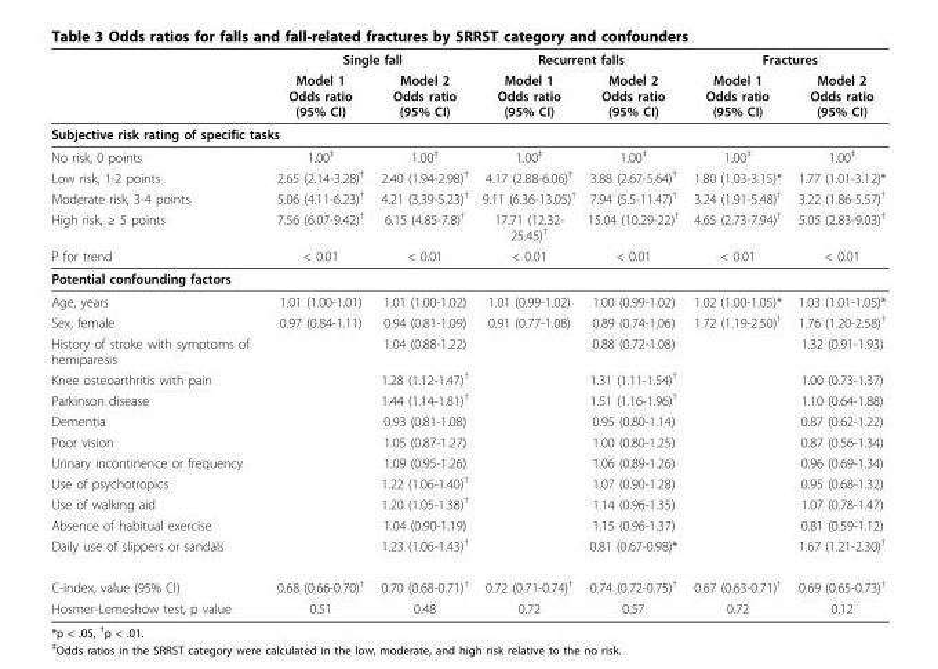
<table><thead><tr><td rowspan="2"></td><td colspan="2">Single fall</td><td colspan="2">Recurrent falls</td><td colspan="2">Fractures</td></tr><tr><td>Model 1 Odds ratio (95% CI)</td><td>Model 2 Odds ratio (95% CI)</td><td>Model 1 Odds ratio (95% CI)</td><td>Model 2 Odds ratio (95% CI)</td><td>Model 1 Odds ratio (95% CI)</td><td>Model 2 Odds ratio (95% CI)</td></tr></thead><tbody><tr><td colspan="7">Subjective risk rating of specific tasks</td></tr><tr><td>No risk, 0 points</td><td>1.00<sup>‡</sup></td><td>1.00<sup>‡</sup></td><td>1.00<sup>‡</sup></td><td>1.00<sup>‡</sup></td><td>1.00<sup>‡</sup></td><td>1.00<sup>‡</sup></td></tr><tr><td>Low risk, 1-2 points</td><td>2.65 (2.14-3.28)<sup>†</sup></td><td>2.40 (1.94-2.98)<sup>†</sup></td><td>4.17 (2.88-6.06)<sup>†</sup></td><td>3.88 (2.67-5.64)<sup>†</sup></td><td>1.80 (1.03-3.15)*</td><td>1.77 (1.01-3.12)*</td></tr><tr><td>Moderate risk, 3-4 points</td><td>5.06 (4.11-6.23)<sup>†</sup></td><td>4.21 (3.39-5.23)<sup>†</sup></td><td>9.11 (6.36-13.05)<sup>†</sup></td><td>7.94 (5.5-11.47)<sup>†</sup></td><td>3.24 (1.91-5.48)<sup>†</sup></td><td>3.22 (1.86-5.57)<sup>†</sup></td></tr><tr><td>High risk, ≥ 5 points</td><td>7.56 (6.07-9.42)<sup>†</sup></td><td>6.15 (4.85-7.8)<sup>†</sup></td><td>17.71 (12.32- 25.45)<sup>†</sup></td><td>15.04 (10.29-22)<sup>†</sup></td><td>4.65 (2.73-7.94)<sup>†</sup></td><td>5.05 (2.83-9.03)<sup>†</sup></td></tr><tr><td>P for trend</td><td>&lt; 0.01</td><td>&lt; 0.01</td><td>&lt; 0.01</td><td>&lt; 0.01</td><td>&lt; 0.01</td><td>&lt; 0.01</td></tr><tr><td colspan="7">Potential confounding factors</td></tr><tr><td>Age, years</td><td>1.01 (1.00-1.01)</td><td>1.01 (1.00-1.02)</td><td>1.01 (0.99-1.02)</td><td>1.00 (0.99-1.02)</td><td>1.02 (1.00-1.05)*</td><td>1.03 (1.01-1.05)*</td></tr><tr><td>Sex, female</td><td>0.97 (0.84-1.11)</td><td>0.94 (0.81-1.09)</td><td>0.91 (0.77-1.08)</td><td>0.89 (0.74-1.06)</td><td>1.72 (1.19-2.50)<sup>†</sup></td><td>1.76 (1.20-2.58)<sup>†</sup></td></tr><tr><td>History of stroke with symptoms of hemiparesis</td><td></td><td>1.04 (0.88-1.22)</td><td></td><td>0.88 (0.72-1.08)</td><td></td><td>1.32 (0.91-1.93)</td></tr><tr><td>Knee osteoarthritis with pain</td><td></td><td>1.28 (1.12-1.47)<sup>†</sup></td><td></td><td>1.31 (1.11-1.54)<sup>†</sup></td><td></td><td>1.00 (0.73-1.37)</td></tr><tr><td>Parkinson disease</td><td></td><td>1.44 (1.14-1.81)<sup>†</sup></td><td></td><td>1.51 (1.16-1.96)<sup>†</sup></td><td></td><td>1.10 (0.64-1.88)</td></tr><tr><td>Dementia</td><td></td><td>0.93 (0.81-1.08)</td><td></td><td>0.95 (0.80-1.14)</td><td></td><td>0.87 (0.62-1.22)</td></tr><tr><td>Poor vision</td><td></td><td>1.05 (0.87-1.27)</td><td></td><td>1.00 (0.80-1.25)</td><td></td><td>0.87 (0.56-1.34)</td></tr><tr><td>Urinary incontinence or frequency</td><td></td><td>1.09 (0.95-1.26)</td><td></td><td>1.06 (0.89-1.26)</td><td></td><td>0.96 (0.69-1.34)</td></tr><tr><td>Use of psychotropics</td><td></td><td>1.22 (1.06-1.40)<sup>†</sup></td><td></td><td>1.07 (0.90-1.28)</td><td></td><td>0.95 (0.68-1.32)</td></tr><tr><td>Use of walking aid</td><td></td><td>1.20 (1.05-1.38)<sup>†</sup></td><td></td><td>1.14 (0.96-1.35)</td><td></td><td>1.07 (0.78-1.47)</td></tr><tr><td>Absence of habitual exercise</td><td></td><td>1.04 (0.90-1.19)</td><td></td><td>1.15 (0.96-1.37)</td><td></td><td>0.81 (0.59-1.12)</td></tr><tr><td>Daily use of slippers or sandals</td><td></td><td>1.23 (1.06-1.43)<sup>†</sup></td><td></td><td>0.81 (0.67-0.98)*</td><td></td><td>1.67 (1.21-2.30)<sup>†</sup></td></tr><tr><td>C-index, value (95% CI)</td><td>0.68 (0.66-0.70)<sup>†</sup></td><td>0.70 (0.68-0.71)<sup>†</sup></td><td>0.72 (0.71-0.74)<sup>†</sup></td><td>0.74 (0.72-0.75)<sup>†</sup></td><td>0.67 (0.63-0.71)<sup>†</sup></td><td>0.69 (0.65-0.73)<sup>†</sup></td></tr><tr><td>Hosmer-Lemeshow test, p value</td><td>0.51</td><td>0.48</td><td>0.72</td><td>0.57</td><td>0.72</td><td>0.12</td></tr></tbody></table>